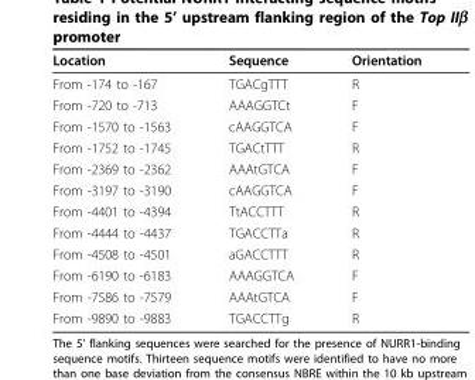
<table><thead><tr><td>Location</td><td>Sequence</td><td>Orientation</td></tr></thead><tbody><tr><td>From -174 to -167</td><td>TGACgTTT</td><td>R</td></tr><tr><td>From -720 to -713</td><td>AAAGGTCt</td><td>F</td></tr><tr><td>From -1570 to -1563</td><td>cAAGGTCA</td><td>F</td></tr><tr><td>From -1752 to -1745</td><td>TGACtTTT</td><td>R</td></tr><tr><td>From -2369 to -2362</td><td>AAAtGTCA</td><td>F</td></tr><tr><td>From -3197 to -3190</td><td>cAAGGTCA</td><td>F</td></tr><tr><td>From -4401 to -4394</td><td>TtACCTTT</td><td>R</td></tr><tr><td>From -4444 to -4437</td><td>TGACCTTa</td><td>R</td></tr><tr><td>From -4508 to -4501</td><td>aGACCTTT</td><td>R</td></tr><tr><td>From -6190 to -6183</td><td>AAAGGTCA</td><td>F</td></tr><tr><td>From -7586 to -7579</td><td>AAAtGTCA</td><td>F</td></tr><tr><td>From -9890 to -9883</td><td>TGACCTTg</td><td>R</td></tr></tbody></table>